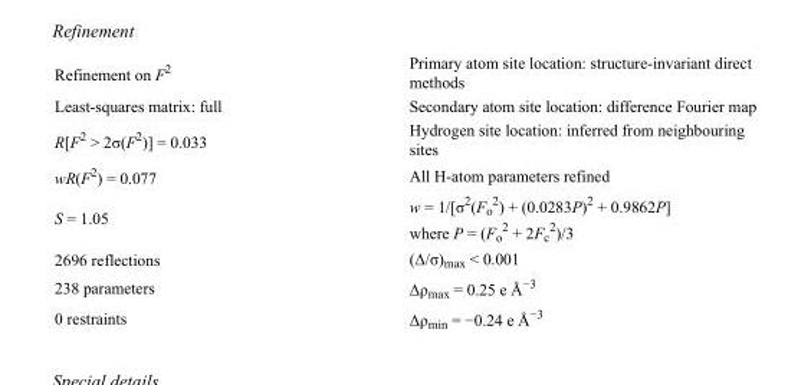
<table><tbody><tr><td>Refinement on F<sup>2</sup></td><td>Primary atom site location: structure-invariant direct methods</td></tr><tr><td>Least-squares matrix: full</td><td>Secondary atom site location: difference Fourier map</td></tr><tr><td>R[F<sup>2</sup> &gt; 2σ(F<sup>2</sup>)] = 0.033</td><td>Hydrogen site location: inferred from neighbouring sites</td></tr><tr><td>wR(F<sup>2</sup>) = 0.077</td><td>All H-atom parameters refined</td></tr><tr><td>S = 1.05</td><td>w = 1/[σ<sup>2</sup>(F<sub>o</sub> <sup>2</sup>) + (0.0283P)<sup>2</sup> + 0.9862P] where P = (F<sub>o</sub> <sup>2</sup> + 2F<sub>c</sub> <sup>2</sup>)/3</td></tr><tr><td>2696 reflections</td><td>(Δ/σ)<sub>max</sub> &lt; 0.001</td></tr><tr><td>238 parameters</td><td>Δρ<sub>max</sub> = 0.25 e Å<sup>−3</sup></td></tr><tr><td>0 restraints</td><td>Δρ<sub>min</sub> = −0.24 e Å<sup>−3</sup></td></tr></tbody></table>